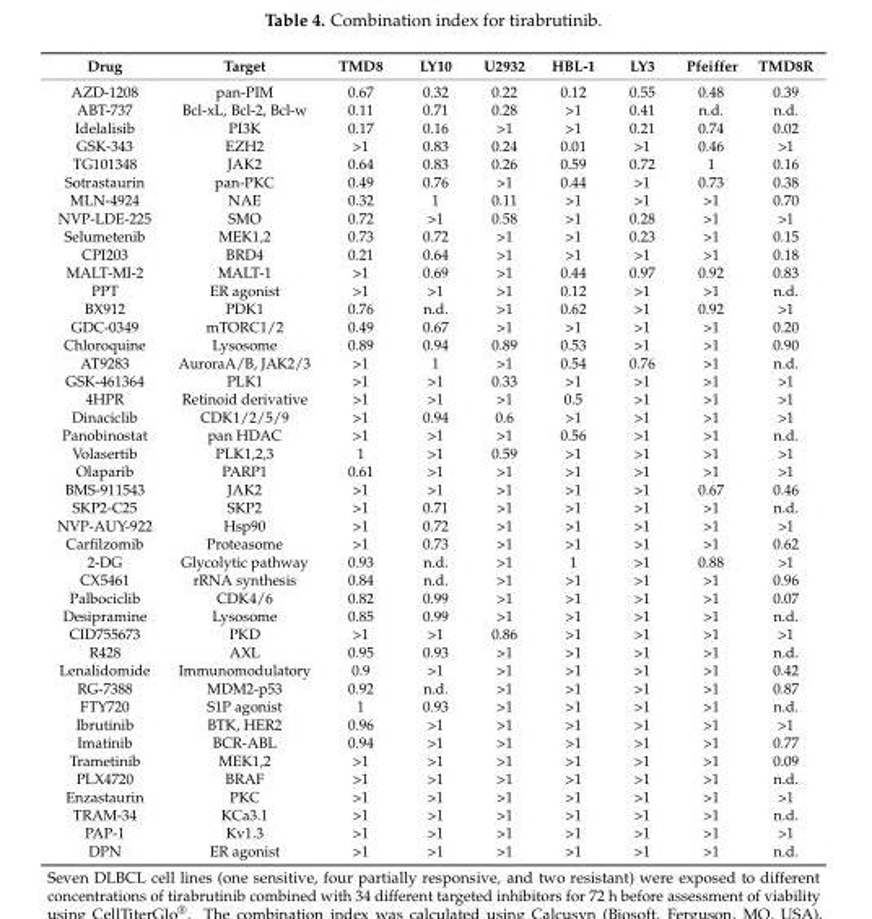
<table><thead><tr><td>Drug</td><td>Target</td><td>TMD8</td><td>LY10</td><td>U2932</td><td>HBL-1</td><td>LY3</td><td>Pfeiffer</td><td>TMD8R</td></tr></thead><tbody><tr><td>AZD-1208</td><td>pan-PIM</td><td>0.67</td><td>0.32</td><td>0.22</td><td>0.12</td><td>0.55</td><td>0.48</td><td>0.39</td></tr><tr><td>ABT-737</td><td>Bcl-xL, Bcl-2, Bcl-w</td><td>0.11</td><td>0.71</td><td>0.28</td><td>&gt;1</td><td>0.41</td><td>n.d.</td><td>n.d.</td></tr><tr><td>Idelalisib</td><td>PI3K</td><td>0.17</td><td>0.16</td><td>&gt;1</td><td>&gt;1</td><td>0.21</td><td>0.74</td><td>0.02</td></tr><tr><td>GSK-343</td><td>EZH2</td><td>&gt;1</td><td>0.83</td><td>0.24</td><td>0.01</td><td>&gt;1</td><td>0.46</td><td>&gt;1</td></tr><tr><td>TG101348</td><td>JAK2</td><td>0.64</td><td>0.83</td><td>0.26</td><td>0.59</td><td>0.72</td><td>1</td><td>0.16</td></tr><tr><td>Sotrastaurin</td><td>pan-PKC</td><td>0.49</td><td>0.76</td><td>&gt;1</td><td>0.44</td><td>&gt;1</td><td>0.73</td><td>0.38</td></tr><tr><td>MLN-4924</td><td>NAE</td><td>0.32</td><td>1</td><td>0.11</td><td>&gt;1</td><td>&gt;1</td><td>&gt;1</td><td>0.70</td></tr><tr><td>NVP-LDE-225</td><td>SMO</td><td>0.72</td><td>&gt;1</td><td>0.58</td><td>&gt;1</td><td>0.28</td><td>&gt;1</td><td>&gt;1</td></tr><tr><td>Selumetenib</td><td>MEK1,2</td><td>0.73</td><td>0.72</td><td>&gt;1</td><td>&gt;1</td><td>0.23</td><td>&gt;1</td><td>0.15</td></tr><tr><td>CPI203</td><td>BRD4</td><td>0.21</td><td>0.64</td><td>&gt;1</td><td>&gt;1</td><td>&gt;1</td><td>&gt;1</td><td>0.18</td></tr><tr><td>MALT-MI-2</td><td>MALT-1</td><td>&gt;1</td><td>0.69</td><td>&gt;1</td><td>0.44</td><td>0.97</td><td>0.92</td><td>0.83</td></tr><tr><td>PPT</td><td>ER agonist</td><td>&gt;1</td><td>&gt;1</td><td>&gt;1</td><td>0.12</td><td>&gt;1</td><td>&gt;1</td><td>n.d.</td></tr><tr><td>BX912</td><td>PDK1</td><td>0.76</td><td>n.d.</td><td>&gt;1</td><td>0.62</td><td>&gt;1</td><td>0.92</td><td>&gt;1</td></tr><tr><td>GDC-0349</td><td>mTORC1/2</td><td>0.49</td><td>0.67</td><td>&gt;1</td><td>&gt;1</td><td>&gt;1</td><td>&gt;1</td><td>0.20</td></tr><tr><td>Chloroquine</td><td>Lysosome</td><td>0.89</td><td>0.94</td><td>0.89</td><td>0.53</td><td>&gt;1</td><td>&gt;1</td><td>0.90</td></tr><tr><td>AT9283</td><td>AuroraA/B, JAK2/3</td><td>&gt;1</td><td>1</td><td>&gt;1</td><td>0.54</td><td>0.76</td><td>&gt;1</td><td>n.d.</td></tr><tr><td>GSK-461364</td><td>PLK1</td><td>&gt;1</td><td>&gt;1</td><td>0.33</td><td>&gt;1</td><td>&gt;1</td><td>&gt;1</td><td>&gt;1</td></tr><tr><td>4HPR</td><td>Retinoid derivative</td><td>&gt;1</td><td>&gt;1</td><td>&gt;1</td><td>0.5</td><td>&gt;1</td><td>&gt;1</td><td>&gt;1</td></tr><tr><td>Dinaciclib</td><td>CDK1/2/5/9</td><td>&gt;1</td><td>0.94</td><td>0.6</td><td>&gt;1</td><td>&gt;1</td><td>&gt;1</td><td>&gt;1</td></tr><tr><td>Panobinostat</td><td>pan HDAC</td><td>&gt;1</td><td>&gt;1</td><td>&gt;1</td><td>0.56</td><td>&gt;1</td><td>&gt;1</td><td>n.d.</td></tr><tr><td>Volasertib</td><td>PLK1,2,3</td><td>1</td><td>&gt;1</td><td>0.59</td><td>&gt;1</td><td>&gt;1</td><td>&gt;1</td><td>&gt;1</td></tr><tr><td>Olaparib</td><td>PARP1</td><td>0.61</td><td>&gt;1</td><td>&gt;1</td><td>&gt;1</td><td>&gt;1</td><td>&gt;1</td><td>&gt;1</td></tr><tr><td>BMS-911543</td><td>JAK2</td><td>&gt;1</td><td>&gt;1</td><td>&gt;1</td><td>&gt;1</td><td>&gt;1</td><td>0.67</td><td>0.46</td></tr><tr><td>SKP2-C25</td><td>SKP2</td><td>&gt;1</td><td>0.71</td><td>&gt;1</td><td>&gt;1</td><td>&gt;1</td><td>&gt;1</td><td>n.d.</td></tr><tr><td>NVP-AUY-922</td><td>Hsp90</td><td>&gt;1</td><td>0.72</td><td>&gt;1</td><td>&gt;1</td><td>&gt;1</td><td>&gt;1</td><td>&gt;1</td></tr><tr><td>Carfilzomib</td><td>Proteasome</td><td>&gt;1</td><td>0.73</td><td>&gt;1</td><td>&gt;1</td><td>&gt;1</td><td>&gt;1</td><td>0.62</td></tr><tr><td>2-DG</td><td>Glycolytic pathway</td><td>0.93</td><td>n.d.</td><td>&gt;1</td><td>1</td><td>&gt;1</td><td>0.88</td><td>&gt;1</td></tr><tr><td>CX5461</td><td>rRNA synthesis</td><td>0.84</td><td>n.d.</td><td>&gt;1</td><td>&gt;1</td><td>&gt;1</td><td>&gt;1</td><td>0.96</td></tr><tr><td>Palbociclib</td><td>CDK4/6</td><td>0.82</td><td>0.99</td><td>&gt;1</td><td>&gt;1</td><td>&gt;1</td><td>&gt;1</td><td>0.07</td></tr><tr><td>Desipramine</td><td>Lysosome</td><td>0.85</td><td>0.99</td><td>&gt;1</td><td>&gt;1</td><td>&gt;1</td><td>&gt;1</td><td>n.d.</td></tr><tr><td>CID755673</td><td>PKD</td><td>&gt;1</td><td>&gt;1</td><td>0.86</td><td>&gt;1</td><td>&gt;1</td><td>&gt;1</td><td>&gt;1</td></tr><tr><td>R428</td><td>AXL</td><td>0.95</td><td>0.93</td><td>&gt;1</td><td>&gt;1</td><td>&gt;1</td><td>&gt;1</td><td>n.d.</td></tr><tr><td>Lenalidomide</td><td>Immunomodulatory</td><td>0.9</td><td>&gt;1</td><td>&gt;1</td><td>&gt;1</td><td>&gt;1</td><td>&gt;1</td><td>0.42</td></tr><tr><td>RG-7388</td><td>MDM2-p53</td><td>0.92</td><td>n.d.</td><td>&gt;1</td><td>&gt;1</td><td>&gt;1</td><td>&gt;1</td><td>0.87</td></tr><tr><td>FTY720</td><td>S1P agonist</td><td>1</td><td>0.93</td><td>&gt;1</td><td>&gt;1</td><td>&gt;1</td><td>&gt;1</td><td>n.d.</td></tr><tr><td>Ibrutinib</td><td>BTK, HER2</td><td>0.96</td><td>&gt;1</td><td>&gt;1</td><td>&gt;1</td><td>&gt;1</td><td>&gt;1</td><td>&gt;1</td></tr><tr><td>Imatinib</td><td>BCR-ABL</td><td>0.94</td><td>&gt;1</td><td>&gt;1</td><td>&gt;1</td><td>&gt;1</td><td>&gt;1</td><td>0.77</td></tr><tr><td>Trametinib</td><td>MEK1,2</td><td>&gt;1</td><td>&gt;1</td><td>&gt;1</td><td>&gt;1</td><td>&gt;1</td><td>&gt;1</td><td>0.09</td></tr><tr><td>PLX4720</td><td>BRAF</td><td>&gt;1</td><td>&gt;1</td><td>&gt;1</td><td>&gt;1</td><td>&gt;1</td><td>&gt;1</td><td>n.d.</td></tr><tr><td>Enzastaurin</td><td>PKC</td><td>&gt;1</td><td>&gt;1</td><td>&gt;1</td><td>&gt;1</td><td>&gt;1</td><td>&gt;1</td><td>&gt;1</td></tr><tr><td>TRAM-34</td><td>KCa3.1</td><td>&gt;1</td><td>&gt;1</td><td>&gt;1</td><td>&gt;1</td><td>&gt;1</td><td>&gt;1</td><td>n.d.</td></tr><tr><td>PAP-1</td><td>Kv1.3</td><td>&gt;1</td><td>&gt;1</td><td>&gt;1</td><td>&gt;1</td><td>&gt;1</td><td>&gt;1</td><td>&gt;1</td></tr><tr><td>DPN</td><td>ER agonist</td><td>&gt;1</td><td>&gt;1</td><td>&gt;1</td><td>&gt;1</td><td>&gt;1</td><td>&gt;1</td><td>n.d.</td></tr></tbody></table>